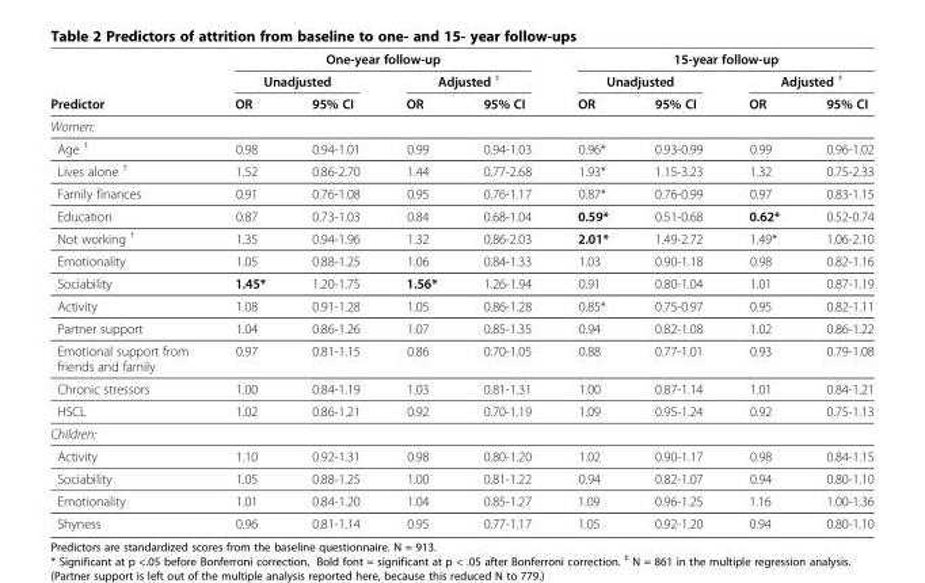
<table><thead><tr><td rowspan="3">Predictor</td><td colspan="4">One-year follow-up</td><td colspan="4">15-year follow-up</td></tr><tr><td colspan="2">Unadjusted</td><td colspan="2">Adjusted <sup>‡</sup></td><td colspan="2">Unadjusted</td><td colspan="2">Adjusted <sup>‡</sup></td></tr><tr><td>OR</td><td>95% CI</td><td>OR</td><td>95% CI</td><td>OR</td><td>95% CI</td><td>OR</td><td>95% CI</td></tr></thead><tbody><tr><td colspan="9">Women:</td></tr><tr><td>Age <sup>†</sup></td><td>0.98</td><td>0.94-1.01</td><td>0.99</td><td>0.94-1.03</td><td>0.96*</td><td>0.93-0.99</td><td>0.99</td><td>0.96-1.02</td></tr><tr><td>Lives alone <sup>†</sup></td><td>1.52</td><td>0.86-2.70</td><td>1.44</td><td>0.77-2.68</td><td>1.93*</td><td>1.15-3.23</td><td>1.32</td><td>0.75-2.33</td></tr><tr><td>Family finances</td><td>0.91</td><td>0.76-1.08</td><td>0.95</td><td>0.76-1.17</td><td>0.87*</td><td>0.76-0.99</td><td>0.97</td><td>0.83-1.15</td></tr><tr><td>Education</td><td>0.87</td><td>0.73-1.03</td><td>0.84</td><td>0.68-1.04</td><td>0.59*</td><td>0.51-0.68</td><td>0.62*</td><td>0.52-0.74</td></tr><tr><td>Not working <sup>†</sup></td><td>1.35</td><td>0.94-1.96</td><td>1.32</td><td>0.86-2.03</td><td>2.01*</td><td>1.49-2.72</td><td>1.49*</td><td>1.06-2.10</td></tr><tr><td>Emotionality</td><td>1.05</td><td>0.88-1.25</td><td>1.06</td><td>0.84-1.33</td><td>1.03</td><td>0.90-1.18</td><td>0.98</td><td>0.82-1.16</td></tr><tr><td>Sociability</td><td>1.45*</td><td>1.20-1.75</td><td>1.56*</td><td>1.26-1.94</td><td>0.91</td><td>0.80-1.04</td><td>1.01</td><td>0.87-1.19</td></tr><tr><td>Activity</td><td>1.08</td><td>0.91-1.28</td><td>1.05</td><td>0.86-1.28</td><td>0.85*</td><td>0.75-0.97</td><td>0.95</td><td>0.82-1.11</td></tr><tr><td>Partner support</td><td>1.04</td><td>0.86-1.26</td><td>1.07</td><td>0.85-1.35</td><td>0.94</td><td>0.82-1.08</td><td>1.02</td><td>0.86-1.22</td></tr><tr><td>Emotional support from friends and family</td><td>0.97</td><td>0.81-1.15</td><td>0.86</td><td>0.70-1.05</td><td>0.88</td><td>0.77-1.01</td><td>0.93</td><td>0.79-1.08</td></tr><tr><td>Chronic stressors</td><td>1.00</td><td>0.84-1.19</td><td>1.03</td><td>0.81-1.31</td><td>1.00</td><td>0.87-1.14</td><td>1.01</td><td>0.84-1.21</td></tr><tr><td>HSCL</td><td>1.02</td><td>0.86-1.21</td><td>0.92</td><td>0.70-1.19</td><td>1.09</td><td>0.95-1.24</td><td>0.92</td><td>0.75-1.13</td></tr><tr><td colspan="9">Children:</td></tr><tr><td>Activity</td><td>1.10</td><td>0.92-1.31</td><td>0.98</td><td>0.80-1.20</td><td>1.02</td><td>0.90-1.17</td><td>0.98</td><td>0.84-1.15</td></tr><tr><td>Sociability</td><td>1.05</td><td>0.88-1.25</td><td>1.00</td><td>0.81-1.22</td><td>0.94</td><td>0.82-1.07</td><td>0.94</td><td>0.80-1.10</td></tr><tr><td>Emotionality</td><td>1.01</td><td>0.84-1.20</td><td>1.04</td><td>0.85-1.27</td><td>1.09</td><td>0.96-1.25</td><td>1.16</td><td>1.00-1.36</td></tr><tr><td>Shyness</td><td>0.96</td><td>0.81-1.14</td><td>0.95</td><td>0.77-1.17</td><td>1.05</td><td>0.92-1.20</td><td>0.94</td><td>0.80-1.10</td></tr></tbody></table>